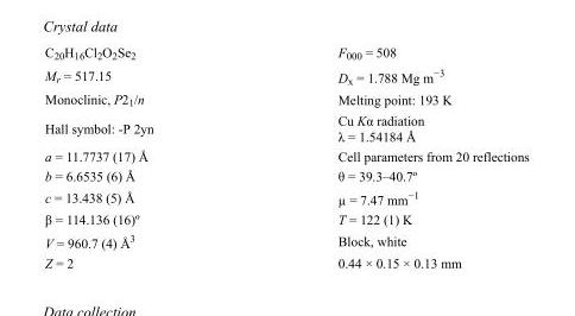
<table><tbody><tr><td>C<sub>20</sub>H<sub>16</sub>Cl<sub>2</sub>O<sub>2</sub>Se<sub>2</sub></td><td>F000 = 508</td></tr><tr><td>M<sub>r</sub> = 517.15</td><td>D<sub>x</sub> = 1.788 Mg m<sup>−3</sup></td></tr><tr><td>Monoclinic, P2<sub>1</sub>/n</td><td>Melting point: 193 K</td></tr><tr><td>Hall symbol: -P 2yn</td><td>Cu Kα radiation λ = 1.54184 Å</td></tr><tr><td>a = 11.7737 (17) Å</td><td>Cell parameters from 20 reflections</td></tr><tr><td>b = 6.6535 (6) Å</td><td>θ = 39.3–40.7º</td></tr><tr><td>c = 13.438 (5) Å</td><td>µ = 7.47 mm<sup>−1</sup></td></tr><tr><td>β = 114.136 (16)º</td><td>T = 122 (1) K</td></tr><tr><td>V = 960.7 (4) Å<sup>3</sup></td><td>Block, white</td></tr><tr><td>Z = 2</td><td>0.44 × 0.15 × 0.13 mm</td></tr></tbody></table>